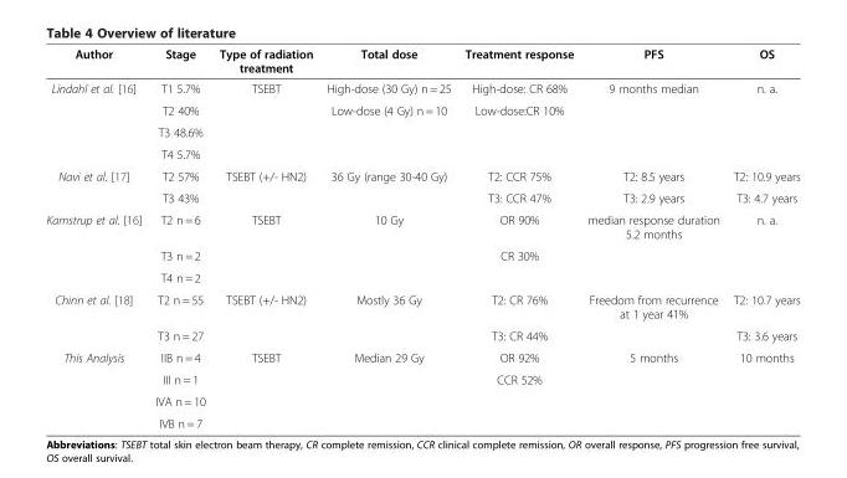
<table><thead><tr><td>Author</td><td>Stage</td><td>Type of radiation treatment</td><td>Total dose</td><td>Treatment response</td><td>PFS</td><td>OS</td></tr></thead><tbody><tr><td rowspan="4">Lindahl et al. [16]</td><td>T1 5.7%</td><td>TSEBT</td><td>High-dose (30 Gy) n = 25</td><td>High-dose: CR 68%</td><td>9 months median</td><td>n. a.</td></tr><tr><td>T2 40%</td><td></td><td>Low-dose (4 Gy) n = 10</td><td>Low-dose:CR 10%</td><td></td><td></td></tr><tr><td>T3 48.6%</td><td></td><td></td><td></td><td></td><td></td></tr><tr><td>T4 5.7%</td><td></td><td></td><td></td><td></td><td></td></tr><tr><td rowspan="2">Navi et al. [17]</td><td>T2 57%</td><td>TSEBT (+/- HN2)</td><td>36 Gy (range 30-40 Gy)</td><td>T2: CCR 75%</td><td>T2: 8.5 years</td><td>T2: 10.9 years</td></tr><tr><td>T3 43%</td><td></td><td></td><td>T3: CCR 47%</td><td>T3: 2.9 years</td><td>T3: 4.7 years</td></tr><tr><td rowspan="3">Kamstrup et al. [16]</td><td>T2 n = 6</td><td>TSEBT</td><td>10 Gy</td><td>OR 90%</td><td>median response duration 5.2 months</td><td>n. a.</td></tr><tr><td>T3 n = 2</td><td></td><td></td><td>CR 30%</td><td></td><td></td></tr><tr><td>T4 n = 2</td><td></td><td></td><td></td><td></td><td></td></tr><tr><td rowspan="2">Chinn et al. [18]</td><td>T2 n = 55</td><td>TSEBT (+/- HN2)</td><td>Mostly 36 Gy</td><td>T2: CR 76%</td><td>Freedom from recurrence at 1 year 41%</td><td>T2: 10.7 years</td></tr><tr><td>T3 n = 27</td><td></td><td></td><td>T3: CR 44%</td><td></td><td>T3: 3.6 years</td></tr><tr><td rowspan="4">This Analysis</td><td>IIB n = 4</td><td>TSEBT</td><td>Median 29 Gy</td><td>OR 92%</td><td>5 months</td><td>10 months</td></tr><tr><td>III n = 1</td><td></td><td></td><td>CCR 52%</td><td></td><td></td></tr><tr><td>IVA n = 10</td><td></td><td></td><td></td><td></td><td></td></tr><tr><td>IVB n = 7</td><td></td><td></td><td></td><td></td><td></td></tr></tbody></table>